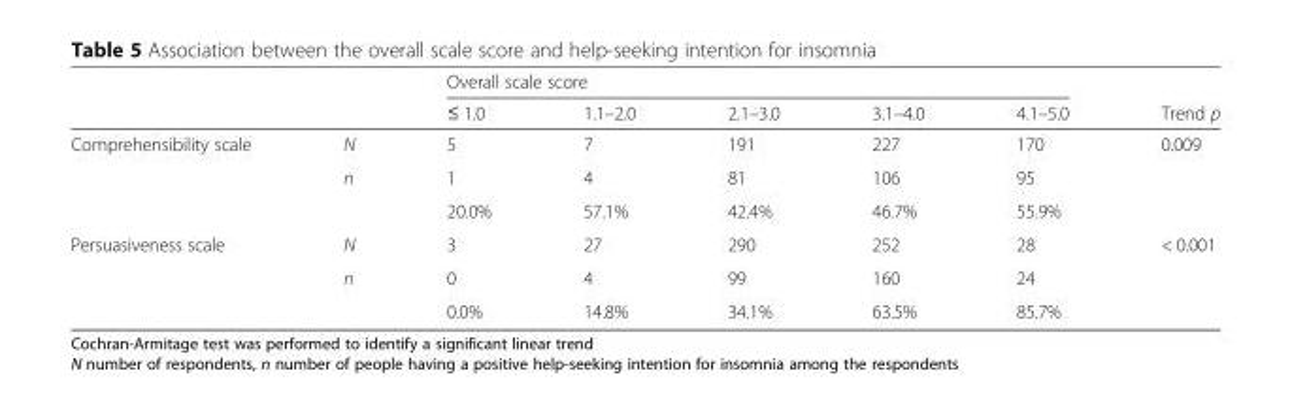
<table><thead><tr><td rowspan="2"></td><td rowspan="2"></td><td colspan="5">Overall scale score</td><td rowspan="2">Trend p</td></tr><tr><td>≤ 1.0</td><td>1.1–2.0</td><td>2.1–3.0</td><td>3.1–4.0</td><td>4.1–5.0</td></tr></thead><tbody><tr><td rowspan="3">Comprehensibility scale</td><td>N</td><td>5</td><td>7</td><td>191</td><td>227</td><td>170</td><td>0.009</td></tr><tr><td>n</td><td>1</td><td>4</td><td>81</td><td>106</td><td>95</td><td></td></tr><tr><td></td><td>20.0%</td><td>57.1%</td><td>42.4%</td><td>46.7%</td><td>55.9%</td><td></td></tr><tr><td rowspan="3">Persuasiveness scale</td><td>N</td><td>3</td><td>27</td><td>290</td><td>252</td><td>28</td><td>&lt; 0.001</td></tr><tr><td>n</td><td>0</td><td>4</td><td>99</td><td>160</td><td>24</td><td></td></tr><tr><td></td><td>0.0%</td><td>14.8%</td><td>34.1%</td><td>63.5%</td><td>85.7%</td><td></td></tr></tbody></table>